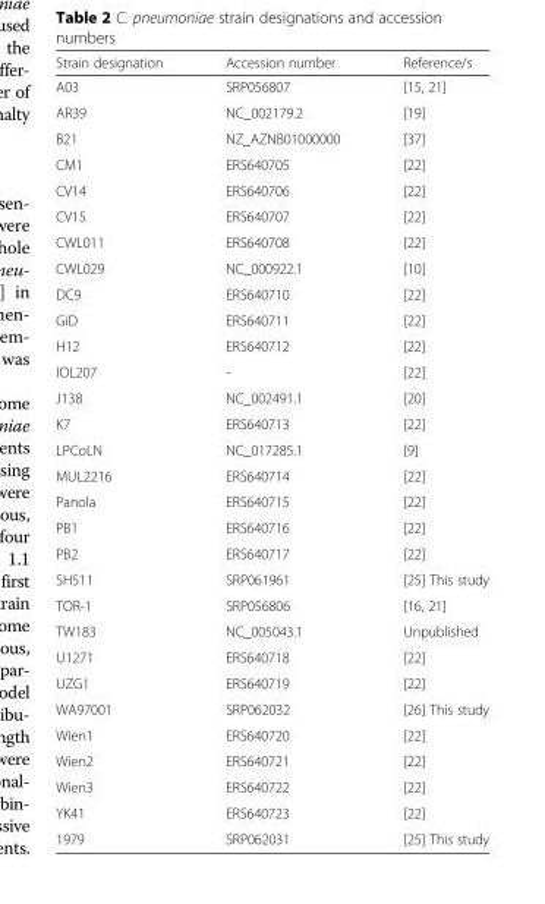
<table><thead><tr><td>Strain designation</td><td>Accession number</td><td>Reference/s</td></tr></thead><tbody><tr><td>A03</td><td>SRP056807</td><td>[15, 21]</td></tr><tr><td>AR39</td><td>NC_002179.2</td><td>[19]</td></tr><tr><td>B21</td><td>NZ_AZNB01000000</td><td>[37]</td></tr><tr><td>CM1</td><td>ERS640705</td><td>[22]</td></tr><tr><td>CV14</td><td>ERS640706</td><td>[22]</td></tr><tr><td>CV15</td><td>ERS640707</td><td>[22]</td></tr><tr><td>CWL011</td><td>ERS640708</td><td>[22]</td></tr><tr><td>CWL029</td><td>NC_000922.1</td><td>[10]</td></tr><tr><td>DC9</td><td>ERS640710</td><td>[22]</td></tr><tr><td>GiD</td><td>ERS640711</td><td>[22]</td></tr><tr><td>H12</td><td>ERS640712</td><td>[22]</td></tr><tr><td>IOL207</td><td>-</td><td>[22]</td></tr><tr><td>J138</td><td>NC_002491.1</td><td>[20]</td></tr><tr><td>K7</td><td>ERS640713</td><td>[22]</td></tr><tr><td>LPCoLN</td><td>NC_017285.1</td><td>[9]</td></tr><tr><td>MUL2216</td><td>ERS640714</td><td>[22]</td></tr><tr><td>Panola</td><td>ERS640715</td><td>[22]</td></tr><tr><td>PB1</td><td>ERS640716</td><td>[22]</td></tr><tr><td>PB2</td><td>ERS640717</td><td>[22]</td></tr><tr><td>SH511</td><td>SRP061961</td><td>[25] This study</td></tr><tr><td>TOR-1</td><td>SRP056806</td><td>[16, 21]</td></tr><tr><td>TW183</td><td>NC_005043.1</td><td>Unpublished</td></tr><tr><td>U1271</td><td>ERS640718</td><td>[22]</td></tr><tr><td>UZG1</td><td>ERS640719</td><td>[22]</td></tr><tr><td>WA97001</td><td>SRP062032</td><td>[26] This study</td></tr><tr><td>Wien1</td><td>ERS640720</td><td>[22]</td></tr><tr><td>Wien2</td><td>ERS640721</td><td>[22]</td></tr><tr><td>Wien3</td><td>ERS640722</td><td>[22]</td></tr><tr><td>YK41</td><td>ERS640723</td><td>[22]</td></tr><tr><td>1979</td><td>SRP062031</td><td>[25] This study</td></tr></tbody></table>